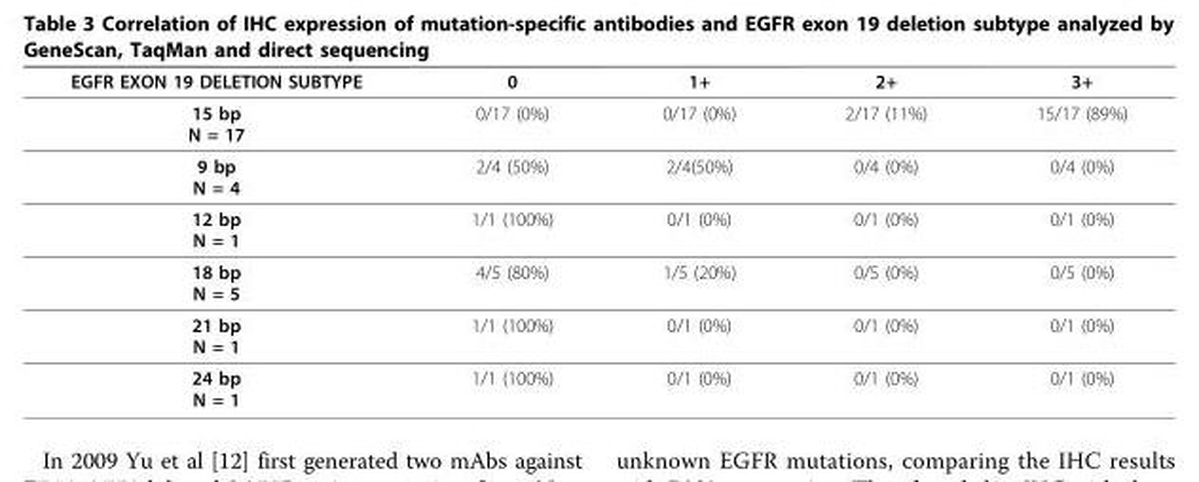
<table><thead><tr><td>EGFR EXON 19 DELETION SUBTYPE</td><td>0</td><td>1+</td><td>2+</td><td>3+</td></tr></thead><tbody><tr><td>15 bp N = 17</td><td>0/17 (0%)</td><td>0/17 (0%)</td><td>2/17 (11%)</td><td>15/17 (89%)</td></tr><tr><td>9 bp N = 4</td><td>2/4 (50%)</td><td>2/4(50%)</td><td>0/4 (0%)</td><td>0/4 (0%)</td></tr><tr><td>12 bp N = 1</td><td>1/1 (100%)</td><td>0/1 (0%)</td><td>0/1 (0%)</td><td>0/1 (0%)</td></tr><tr><td>18 bp N = 5</td><td>4/5 (80%)</td><td>1/5 (20%)</td><td>0/5 (0%)</td><td>0/5 (0%)</td></tr><tr><td>21 bp N = 1</td><td>1/1 (100%)</td><td>0/1 (0%)</td><td>0/1 (0%)</td><td>0/1 (0%)</td></tr><tr><td>24 bp N = 1</td><td>1/1 (100%)</td><td>0/1 (0%)</td><td>0/1 (0%)</td><td>0/1 (0%)</td></tr></tbody></table>